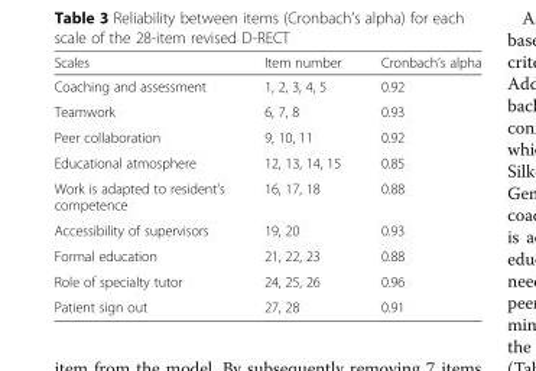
<table><thead><tr><td>Scales</td><td>Item number</td><td>Cronbach’s alpha</td></tr></thead><tbody><tr><td>Coaching and assessment</td><td>1, 2, 3, 4, 5</td><td>0.92</td></tr><tr><td>Teamwork</td><td>6, 7, 8</td><td>0.93</td></tr><tr><td>Peer collaboration</td><td>9, 10, 11</td><td>0.92</td></tr><tr><td>Educational atmosphere</td><td>12, 13, 14, 15</td><td>0.85</td></tr><tr><td>Work is adapted to resident’s competence</td><td>16, 17, 18</td><td>0.88</td></tr><tr><td>Accessibility of supervisors</td><td>19, 20</td><td>0.93</td></tr><tr><td>Formal education</td><td>21, 22, 23</td><td>0.88</td></tr><tr><td>Role of specialty tutor</td><td>24, 25, 26</td><td>0.96</td></tr><tr><td>Patient sign out</td><td>27, 28</td><td>0.91</td></tr></tbody></table>